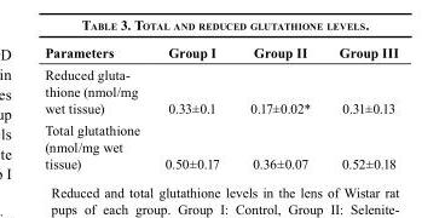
<table><thead><tr><td>Parameters</td><td>Group I</td><td>Group II</td><td>Group III</td></tr></thead><tbody><tr><td>Reduced gluta- thione (nmol/mg wet tissue)</td><td>0.33±0.1</td><td>0.17±0.02*</td><td>0.31±0.13</td></tr><tr><td>Total glutathione (nmol/mg wet tissue)</td><td>0.50±0.17</td><td>0.36±0.07</td><td>0.52±0.18</td></tr></tbody></table>